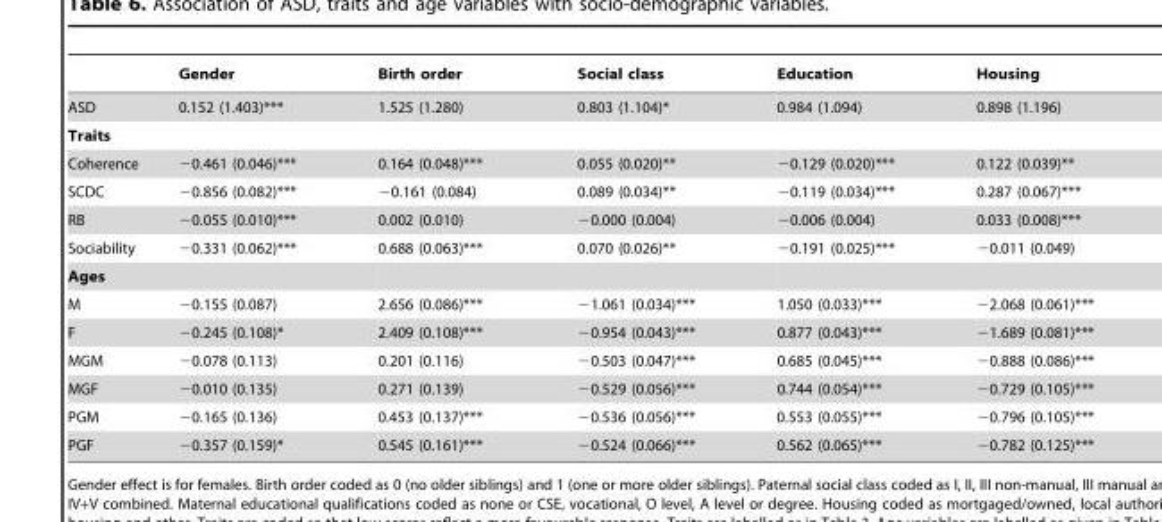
<table><thead><tr><td></td><td>Gender</td><td>Birth order</td><td>Social class</td><td>Education</td><td>Housing</td></tr></thead><tbody><tr><td>ASD</td><td>0.152 (1.403)***</td><td>1.525 (1.280)</td><td>0.803 (1.104)*</td><td>0.984 (1.094)</td><td>0.898 (1.196)</td></tr><tr><td colspan="6">Traits</td></tr><tr><td>Coherence</td><td>−0.461 (0.046)***</td><td>0.164 (0.048)***</td><td>0.055 (0.020)**</td><td>−0.129 (0.020)***</td><td>0.122 (0.039)**</td></tr><tr><td>SCDC</td><td>−0.856 (0.082)***</td><td>−0.161 (0.084)</td><td>0.089 (0.034)**</td><td>−0.119 (0.034)***</td><td>0.287 (0.067)***</td></tr><tr><td>RB</td><td>−0.055 (0.010)***</td><td>0.002 (0.010)</td><td>−0.000 (0.004)</td><td>−0.006 (0.004)</td><td>0.033 (0.008)***</td></tr><tr><td>Sociability</td><td>−0.331 (0.062)***</td><td>0.688 (0.063)***</td><td>0.070 (0.026)**</td><td>−0.191 (0.025)***</td><td>−0.011 (0.049)</td></tr><tr><td colspan="6">Ages</td></tr><tr><td>M</td><td>−0.155 (0.087)</td><td>2.656 (0.086)***</td><td>−1.061 (0.034)***</td><td>1.050 (0.033)***</td><td>−2.068 (0.061)***</td></tr><tr><td>F</td><td>−0.245 (0.108)*</td><td>2.409 (0.108)***</td><td>−0.954 (0.043)***</td><td>0.877 (0.043)***</td><td>−1.689 (0.081)***</td></tr><tr><td>MGM</td><td>−0.078 (0.113)</td><td>0.201 (0.116)</td><td>−0.503 (0.047)***</td><td>0.685 (0.045)***</td><td>−0.888 (0.086)***</td></tr><tr><td>MGF</td><td>−0.010 (0.135)</td><td>0.271 (0.139)</td><td>−0.529 (0.056)***</td><td>0.744 (0.054)***</td><td>−0.729 (0.105)***</td></tr><tr><td>PGM</td><td>−0.165 (0.136)</td><td>0.453 (0.137)***</td><td>−0.536 (0.056)***</td><td>0.553 (0.055)***</td><td>−0.796 (0.105)***</td></tr><tr><td>PGF</td><td>−0.357 (0.159)*</td><td>0.545 (0.161)***</td><td>−0.524 (0.066)***</td><td>0.562 (0.065)***</td><td>−0.782 (0.125)***</td></tr></tbody></table>